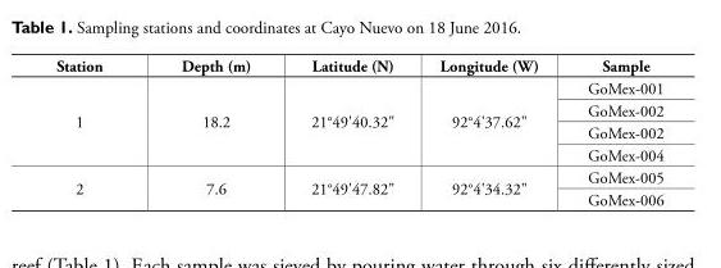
<table><thead><tr><td>Station</td><td>Depth (m)</td><td>Latitude (N)</td><td>Longitude (W)</td><td>Sample</td></tr></thead><tbody><tr><td rowspan="4">1</td><td rowspan="4">18.2</td><td rowspan="4" colspan="2">21°49&#x27;40.32&quot; 92°4&#x27;37.62&quot;</td><td>GoMex-001</td></tr><tr><td>GoMex-002</td></tr><tr><td>GoMex-002</td></tr><tr><td>GoMex-004</td></tr><tr><td rowspan="2">2</td><td rowspan="2">7.6</td><td rowspan="2" colspan="2">21°49&#x27;47.82&quot; 92°4&#x27;34.32&quot;</td><td>GoMex-005</td></tr><tr><td>GoMex-006</td></tr></tbody></table>